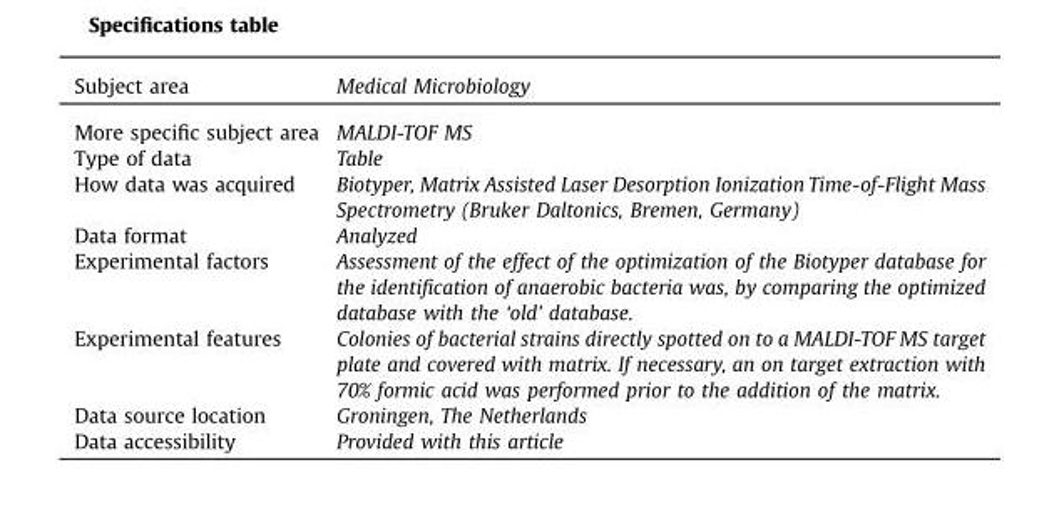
<table><thead><tr><td>Subject area</td><td>Medical Microbiology</td></tr></thead><tbody><tr><td>More specific subject area</td><td>MALDI-TOF MS</td></tr><tr><td>Type of data</td><td>Table</td></tr><tr><td>How data was acquired</td><td>Biotyper, Matrix Assisted Laser Desorption Ionization Time-of-Flight Mass Spectrometry (Bruker Daltonics, Bremen, Germany)</td></tr><tr><td>Data format</td><td>Analyzed</td></tr><tr><td>Experimental factors</td><td>Assessment of the effect of the optimization of the Biotyper database for the identification of anaerobic bacteria was, by comparing the optimized database with the ‘old’ database.</td></tr><tr><td>Experimental features</td><td>Colonies of bacterial strains directly spotted on to a MALDI-TOF MS target plate and covered with matrix. If necessary, an on target extraction with 70% formic acid was performed prior to the addition of the matrix.</td></tr><tr><td>Data source location</td><td>Groningen, The Netherlands</td></tr><tr><td>Data accessibility</td><td>Provided with this article</td></tr></tbody></table>